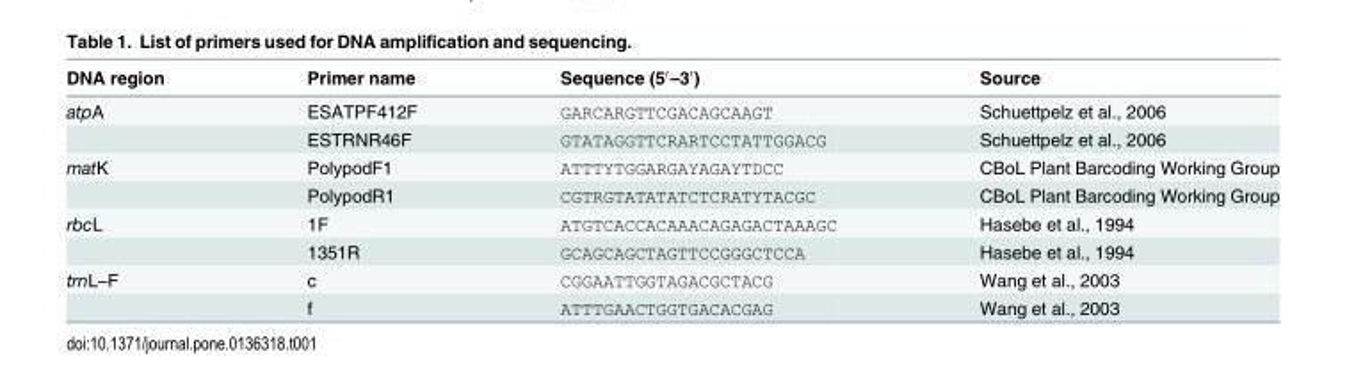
<table><thead><tr><td>DNA region</td><td>Primer name</td><td>Sequence (5′–3′)</td><td>Source</td></tr></thead><tbody><tr><td rowspan="2">atpA</td><td>ESATPF412F</td><td>GARCARGTTCGACAGCAAGT</td><td>Schuettpelz et al., 2006</td></tr><tr><td>ESTRNR46F</td><td>GTATAGGTTCRARTCCTATTGGACG</td><td>Schuettpelz et al., 2006</td></tr><tr><td rowspan="2">matK</td><td>PolypodF1</td><td>ATTTYTGGARGAYAGAYTDCC</td><td>CBoL Plant Barcoding Working Group</td></tr><tr><td>PolypodR1</td><td>CGTRGTATATATCTCRATYTACGC</td><td>CBoL Plant Barcoding Working Group</td></tr><tr><td rowspan="2">rbcL</td><td>1F</td><td>ATGTCACCACAAACAGAGACTAAAGC</td><td>Hasebe et al., 1994</td></tr><tr><td>1351R</td><td>GCAGCAGCTAGTTCCGGGCTCCA</td><td>Hasebe et al., 1994</td></tr><tr><td rowspan="2">trnL–F</td><td>c</td><td>CGGAATTGGTAGACGCTACG</td><td>Wang et al., 2003</td></tr><tr><td>f</td><td>ATTTGAACTGGTGACACGAG</td><td>Wang et al., 2003</td></tr></tbody></table>